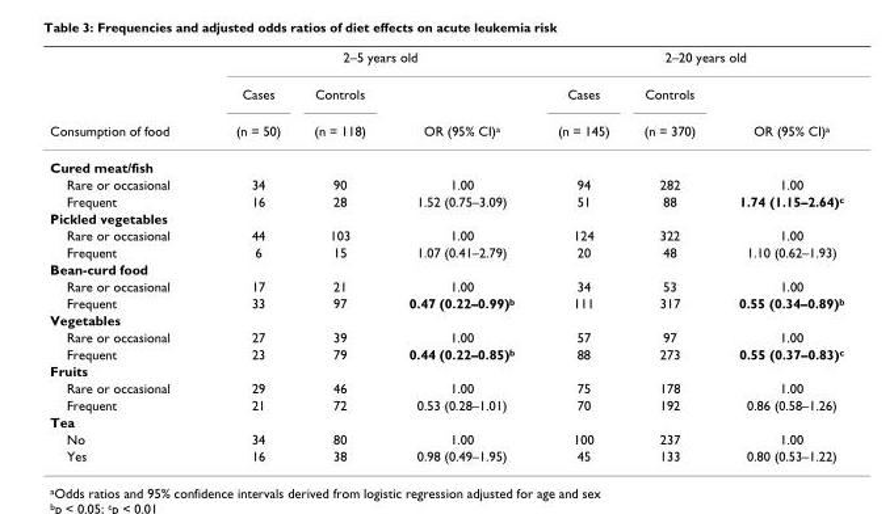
<table><thead><tr><td rowspan="3">Consumption of food</td><td colspan="3">2–5 years old</td><td colspan="3">2–20 years old</td></tr><tr><td rowspan="2">Cases (n = 50)</td><td rowspan="2">Controls (n = 118)</td><td rowspan="2">OR (95% CI)<sup>a</sup></td><td rowspan="2">Cases (n = 145)</td><td rowspan="2">Controls (n = 370)</td><td rowspan="2">OR (95% CI)<sup>a</sup></td></tr><tr></tr></thead><tbody><tr><td colspan="7">Cured meat/fish</td></tr><tr><td>Rare or occasional</td><td>34</td><td>90</td><td>1.00</td><td>94</td><td>282</td><td>1.00</td></tr><tr><td>Frequent</td><td>16</td><td>28</td><td>1.52 (0.75–3.09)</td><td>51</td><td>88</td><td>1.74 (1.15–2.64)<sup>c</sup></td></tr><tr><td colspan="7">Pickled vegetables</td></tr><tr><td>Rare or occasional</td><td>44</td><td>103</td><td>1.00</td><td>124</td><td>322</td><td>1.00</td></tr><tr><td>Frequent</td><td>6</td><td>15</td><td>1.07 (0.41–2.79)</td><td>20</td><td>48</td><td>1.10 (0.62–1.93)</td></tr><tr><td colspan="7">Bean-curd food</td></tr><tr><td>Rare or occasional</td><td>17</td><td>21</td><td>1.00</td><td>34</td><td>53</td><td>1.00</td></tr><tr><td>Frequent</td><td>33</td><td>97</td><td>0.47 (0.22–0.99)<sup>b</sup></td><td>111</td><td>317</td><td>0.55 (0.34–0.89)<sup>b</sup></td></tr><tr><td colspan="7">Vegetables</td></tr><tr><td>Rare or occasional</td><td>27</td><td>39</td><td>1.00</td><td>57</td><td>97</td><td>1.00</td></tr><tr><td>Frequent</td><td>23</td><td>79</td><td>0.44 (0.22–0.85)<sup>b</sup></td><td>88</td><td>273</td><td>0.55 (0.37–0.83)<sup>c</sup></td></tr><tr><td colspan="7">Fruits</td></tr><tr><td>Rare or occasional</td><td>29</td><td>46</td><td>1.00</td><td>75</td><td>178</td><td>1.00</td></tr><tr><td>Frequent</td><td>21</td><td>72</td><td>0.53 (0.28–1.01)</td><td>70</td><td>192</td><td>0.86 (0.58–1.26)</td></tr><tr><td colspan="7">Tea</td></tr><tr><td>No</td><td>34</td><td>80</td><td>1.00</td><td>100</td><td>237</td><td>1.00</td></tr><tr><td>Yes</td><td>16</td><td>38</td><td>0.98 (0.49–1.95)</td><td>45</td><td>133</td><td>0.80 (0.53–1.22)</td></tr></tbody></table>